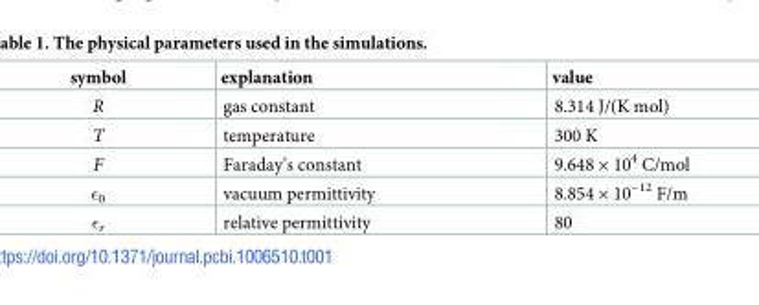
<table><thead><tr><td>symbol</td><td>explanation</td><td>value</td></tr></thead><tbody><tr><td>R</td><td>gas constant</td><td>8.314 J/(K mol)</td></tr><tr><td>T</td><td>temperature</td><td>300 K</td></tr><tr><td>F</td><td>Faraday’s constant</td><td>9.648 × 10<sup>4</sup> C/mol</td></tr><tr><td>ϵ<sub>0</sub></td><td>vacuum permittivity</td><td>8.854 × 10<sup>−12</sup> F/m</td></tr><tr><td>ϵ<sub>r</sub></td><td>relative permittivity</td><td>80</td></tr></tbody></table>